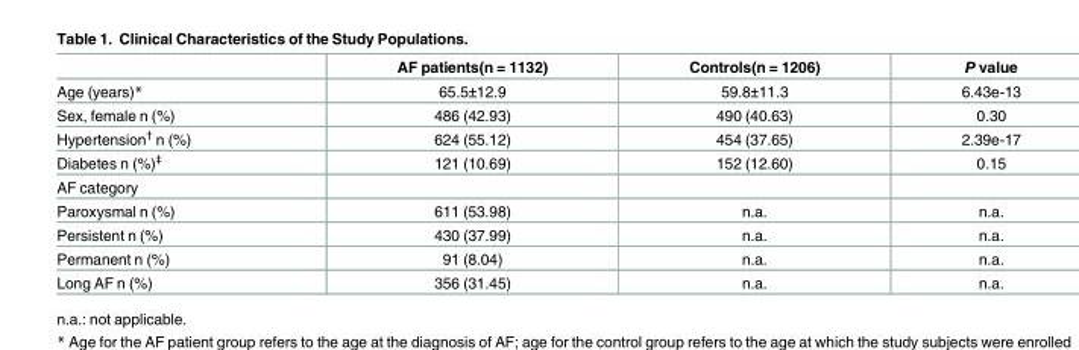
<table><thead><tr><td></td><td>AF patients(n = 1132)</td><td>Controls(n = 1206)</td><td>P value</td></tr></thead><tbody><tr><td>Age (years)*</td><td>65.5±12.9</td><td>59.8±11.3</td><td>6.43e-13</td></tr><tr><td>Sex, female n (%)</td><td>486 (42.93)</td><td>490 (40.63)</td><td>0.30</td></tr><tr><td>Hypertension<sup>†</sup> n (%)</td><td>624 (55.12)</td><td>454 (37.65)</td><td>2.39e-17</td></tr><tr><td>Diabetes n (%)<sup>‡</sup></td><td>121 (10.69)</td><td>152 (12.60)</td><td>0.15</td></tr><tr><td colspan="4">AF category</td></tr><tr><td>Paroxysmal n (%)</td><td>611 (53.98)</td><td>n.a.</td><td>n.a.</td></tr><tr><td>Persistent n (%)</td><td>430 (37.99)</td><td>n.a.</td><td>n.a.</td></tr><tr><td>Permanent n (%)</td><td>91 (8.04)</td><td>n.a.</td><td>n.a.</td></tr><tr><td>Long AF n (%)</td><td>356 (31.45)</td><td>n.a.</td><td>n.a.</td></tr></tbody></table>